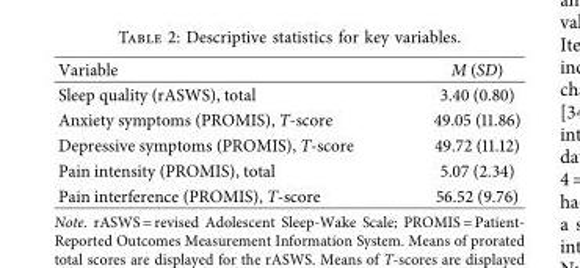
<table><thead><tr><td>Variable</td><td>M (SD)</td></tr></thead><tbody><tr><td>Sleep quality (rASWS), total</td><td>3.40 (0.80)</td></tr><tr><td>Anxiety symptoms (PROMIS), T-score</td><td>49.05 (11.86)</td></tr><tr><td>Depressive symptoms (PROMIS), T-score</td><td>49.72 (11.12)</td></tr><tr><td>Pain intensity (PROMIS), total</td><td>5.07 (2.34)</td></tr><tr><td>Pain interference (PROMIS), T-score</td><td>56.52 (9.76)</td></tr></tbody></table>